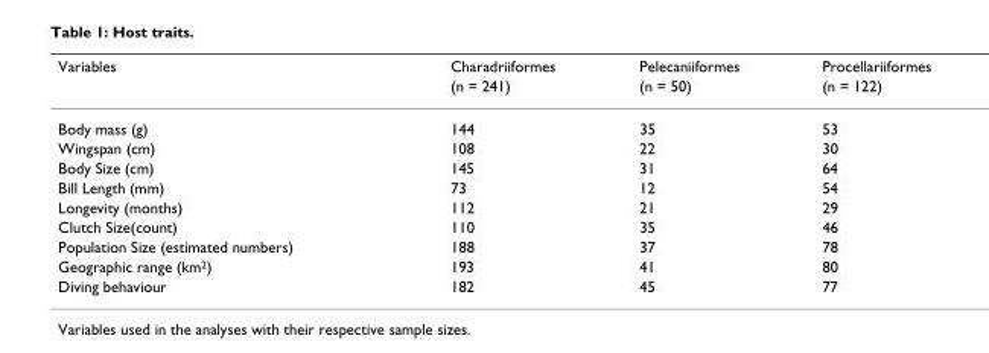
<table><thead><tr><td rowspan="2">Variables</td><td rowspan="2">Charadriiformes (n = 241)</td><td rowspan="2">Pelecaniiformes (n = 50)</td><td rowspan="2">Procellariiformes (n = 122)</td></tr><tr></tr></thead><tbody><tr><td>Body mass (g)</td><td>144</td><td>35</td><td>53</td></tr><tr><td>Wingspan (cm)</td><td>108</td><td>22</td><td>30</td></tr><tr><td>Body Size (cm)</td><td>145</td><td>31</td><td>64</td></tr><tr><td>Bill Length (mm)</td><td>73</td><td>12</td><td>54</td></tr><tr><td>Longevity (months)</td><td>112</td><td>21</td><td>29</td></tr><tr><td>Clutch Size(count)</td><td>110</td><td>35</td><td>46</td></tr><tr><td>Population Size (estimated numbers)</td><td>188</td><td>37</td><td>78</td></tr><tr><td>Geographic range (km<sup>2</sup>)</td><td>193</td><td>41</td><td>80</td></tr><tr><td>Diving behaviour</td><td>182</td><td>45</td><td>77</td></tr></tbody></table>